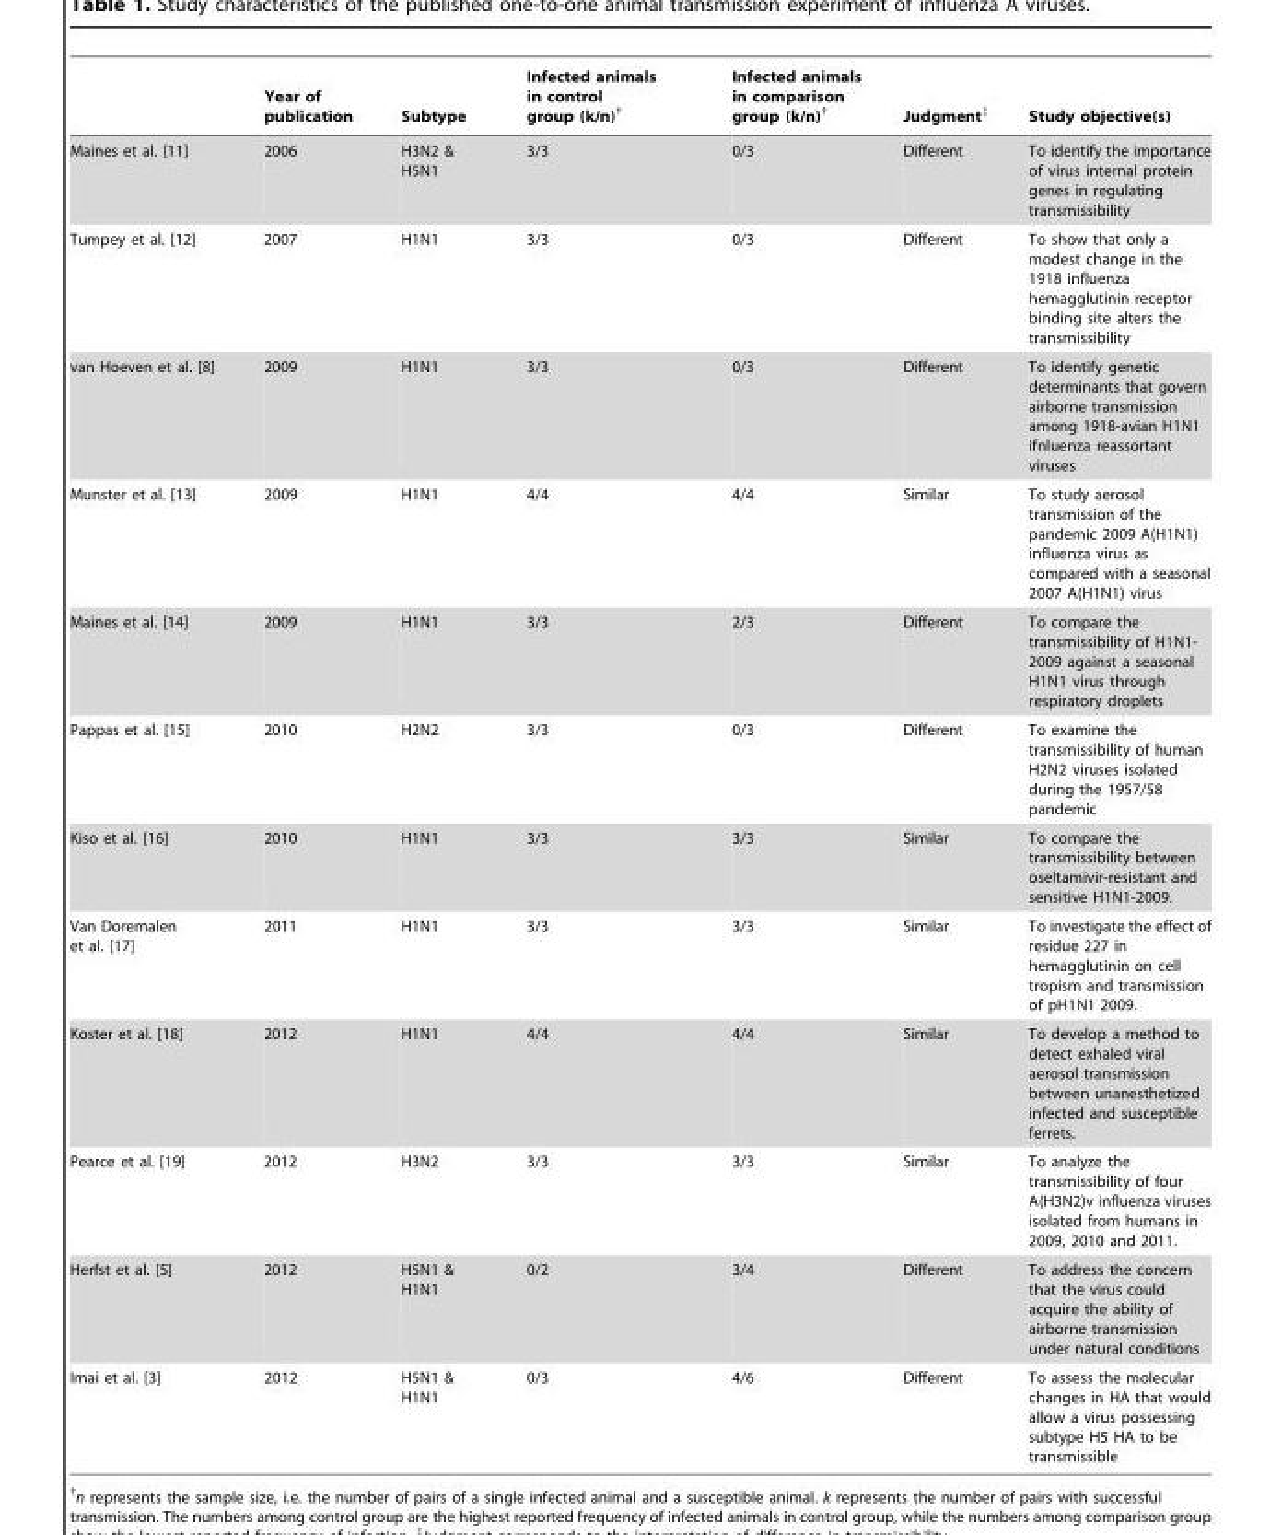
<table><thead><tr><td></td><td>Year of publication</td><td>Subtype</td><td>Infected animals in control group (k/n)†</td><td>Infected animals in comparison group (k/n)†</td><td>Judgment<sup>‡</sup></td><td>Study objective(s)</td></tr></thead><tbody><tr><td>Maines et al. [11]</td><td>2006</td><td>H3N2 &amp; H5N1</td><td>3/3</td><td>0/3</td><td>Different</td><td>To identify the importance of virus internal protein genes in regulating transmissibility</td></tr><tr><td>Tumpey et al. [12]</td><td>2007</td><td>H1N1</td><td>3/3</td><td>0/3</td><td>Different</td><td>To show that only a modest change in the 1918 influenza hemagglutinin receptor binding site alters the transmissibility</td></tr><tr><td>van Hoeven et al. [8]</td><td>2009</td><td>H1N1</td><td>3/3</td><td>0/3</td><td>Different</td><td>To identify genetic determinants that govern airborne transmission among 1918-avian H1N1 ifnluenza reassortant viruses</td></tr><tr><td>Munster et al. [13]</td><td>2009</td><td>H1N1</td><td>4/4</td><td>4/4</td><td>Similar</td><td>To study aerosol transmission of the pandemic 2009 A(H1N1) influenza virus as compared with a seasonal 2007 A(H1N1) virus</td></tr><tr><td>Maines et al. [14]</td><td>2009</td><td>H1N1</td><td>3/3</td><td>2/3</td><td>Different</td><td>To compare the transmissibility of H1N1- 2009 against a seasonal H1N1 virus through respiratory droplets</td></tr><tr><td>Pappas et al. [15]</td><td>2010</td><td>H2N2</td><td>3/3</td><td>0/3</td><td>Different</td><td>To examine the transmissibility of human H2N2 viruses isolated during the 1957/58 pandemic</td></tr><tr><td>Kiso et al. [16]</td><td>2010</td><td>H1N1</td><td>3/3</td><td>3/3</td><td>Similar</td><td>To compare the transmissibility between oseltamivir-resistant and sensitive H1N1-2009.</td></tr><tr><td>Van Doremalen et al. [17]</td><td>2011</td><td>H1N1</td><td>3/3</td><td>3/3</td><td>Similar</td><td>To investigate the effect of residue 227 in hemagglutinin on cell tropism and transmission of pH1N1 2009.</td></tr><tr><td>Koster et al. [18]</td><td>2012</td><td>H1N1</td><td>4/4</td><td>4/4</td><td>Similar</td><td>To develop a method to detect exhaled viral aerosol transmission between unanesthetized infected and susceptible ferrets.</td></tr><tr><td>Pearce et al. [19]</td><td>2012</td><td>H3N2</td><td>3/3</td><td>3/3</td><td>Similar</td><td>To analyze the transmissibility of four A(H3N2)v influenza viruses isolated from humans in 2009, 2010 and 2011.</td></tr><tr><td>Herfst et al. [5]</td><td>2012</td><td>H5N1 &amp; H1N1</td><td>0/2</td><td>3/4</td><td>Different</td><td>To address the concern that the virus could acquire the ability of airborne transmission under natural conditions</td></tr><tr><td>Imai et al. [3]</td><td>2012</td><td>H5N1 &amp; H1N1</td><td>0/3</td><td>4/6</td><td>Different</td><td>To assess the molecular changes in HA that would allow a virus possessing subtype H5 HA to be transmissible</td></tr></tbody></table>